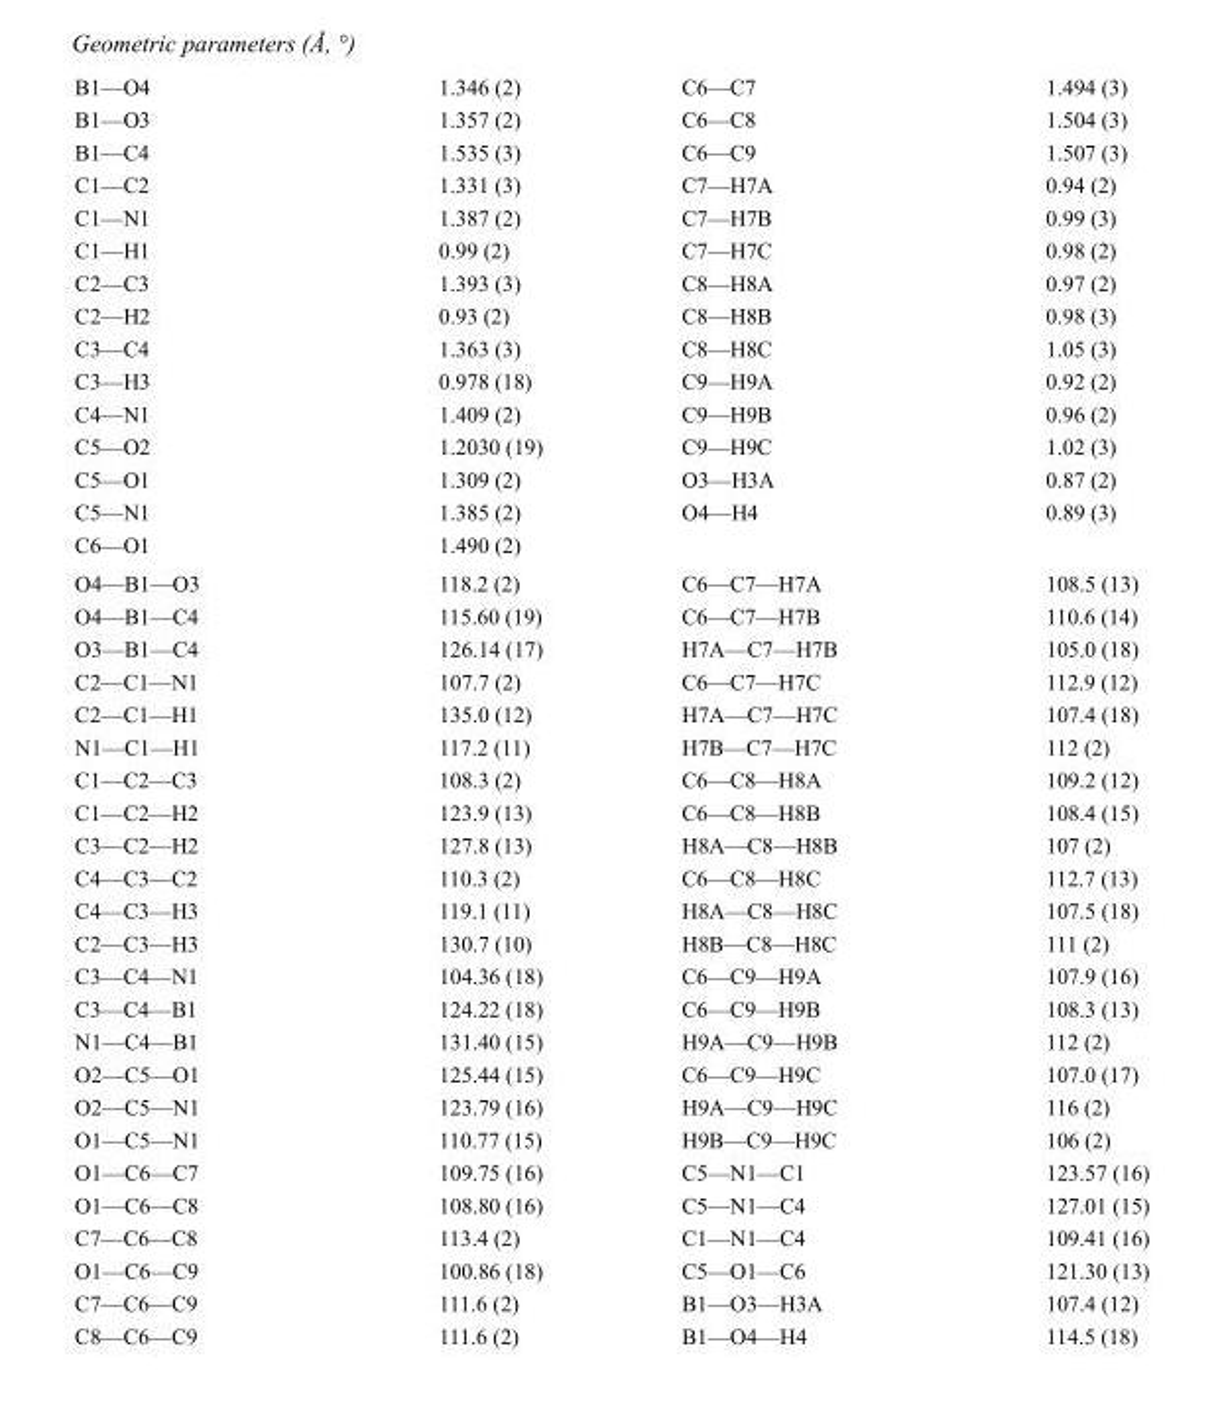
<table><tbody><tr><td>B1—O4</td><td>1.346 (2)</td><td>C6—C7</td><td>1.494 (3)</td></tr><tr><td>B1—O3</td><td>1.357 (2)</td><td>C6—C8</td><td>1.504 (3)</td></tr><tr><td>B1—C4</td><td>1.535 (3)</td><td>C6—C9</td><td>1.507 (3)</td></tr><tr><td>C1—C2</td><td>1.331 (3)</td><td>C7—H7A</td><td>0.94 (2)</td></tr><tr><td>C1—N1</td><td>1.387 (2)</td><td>C7—H7B</td><td>0.99 (3)</td></tr><tr><td>C1—H1</td><td>0.99 (2)</td><td>C7—H7C</td><td>0.98 (2)</td></tr><tr><td>C2—C3</td><td>1.393 (3)</td><td>C8—H8A</td><td>0.97 (2)</td></tr><tr><td>C2—H2</td><td>0.93 (2)</td><td>C8—H8B</td><td>0.98 (3)</td></tr><tr><td>C3—C4</td><td>1.363 (3)</td><td>C8—H8C</td><td>1.05 (3)</td></tr><tr><td>C3—H3</td><td>0.978 (18)</td><td>C9—H9A</td><td>0.92 (2)</td></tr><tr><td>C4—N1</td><td>1.409 (2)</td><td>C9—H9B</td><td>0.96 (2)</td></tr><tr><td>C5—O2</td><td>1.2030 (19)</td><td>C9—H9C</td><td>1.02 (3)</td></tr><tr><td>C5—O1</td><td>1.309 (2)</td><td>O3—H3A</td><td>0.87 (2)</td></tr><tr><td>C5—N1</td><td>1.385 (2)</td><td>O4—H4</td><td>0.89 (3)</td></tr><tr><td>C6—O1</td><td>1.490 (2)</td><td></td><td></td></tr><tr><td>O4—B1—O3</td><td>118.2 (2)</td><td>C6—C7—H7A</td><td>108.5 (13)</td></tr><tr><td>O4—B1—C4</td><td>115.60 (19)</td><td>C6—C7—H7B</td><td>110.6 (14)</td></tr><tr><td>O3—B1—C4</td><td>126.14 (17)</td><td>H7A—C7—H7B</td><td>105.0 (18)</td></tr><tr><td>C2—C1—N1</td><td>107.7 (2)</td><td>C6—C7—H7C</td><td>112.9 (12)</td></tr><tr><td>C2—C1—H1</td><td>135.0 (12)</td><td>H7A—C7—H7C</td><td>107.4 (18)</td></tr><tr><td>N1—C1—H1</td><td>117.2 (11)</td><td>H7B—C7—H7C</td><td>112 (2)</td></tr><tr><td>C1—C2—C3</td><td>108.3 (2)</td><td>C6—C8—H8A</td><td>109.2 (12)</td></tr><tr><td>C1—C2—H2</td><td>123.9 (13)</td><td>C6—C8—H8B</td><td>108.4 (15)</td></tr><tr><td>C3—C2—H2</td><td>127.8 (13)</td><td>H8A—C8—H8B</td><td>107 (2)</td></tr><tr><td>C4—C3—C2</td><td>110.3 (2)</td><td>C6—C8—H8C</td><td>112.7 (13)</td></tr><tr><td>C4—C3—H3</td><td>119.1 (11)</td><td>H8A—C8—H8C</td><td>107.5 (18)</td></tr><tr><td>C2—C3—H3</td><td>130.7 (10)</td><td>H8B—C8—H8C</td><td>111 (2)</td></tr><tr><td>C3—C4—N1</td><td>104.36 (18)</td><td>C6—C9—H9A</td><td>107.9 (16)</td></tr><tr><td>C3—C4—B1</td><td>124.22 (18)</td><td>C6—C9—H9B</td><td>108.3 (13)</td></tr><tr><td>N1—C4—B1</td><td>131.40 (15)</td><td>H9A—C9—H9B</td><td>112 (2)</td></tr><tr><td>O2—C5—O1</td><td>125.44 (15)</td><td>C6—C9—H9C</td><td>107.0 (17)</td></tr><tr><td>O2—C5—N1</td><td>123.79 (16)</td><td>H9A—C9—H9C</td><td>116 (2)</td></tr><tr><td>O1—C5—N1</td><td>110.77 (15)</td><td>H9B—C9—H9C</td><td>106 (2)</td></tr><tr><td>O1—C6—C7</td><td>109.75 (16)</td><td>C5—N1—C1</td><td>123.57 (16)</td></tr><tr><td>O1—C6—C8</td><td>108.80 (16)</td><td>C5—N1—C4</td><td>127.01 (15)</td></tr><tr><td>C7—C6—C8</td><td>113.4 (2)</td><td>C1—N1—C4</td><td>109.41 (16)</td></tr><tr><td>O1—C6—C9</td><td>100.86 (18)</td><td>C5—O1—C6</td><td>121.30 (13)</td></tr><tr><td>C7—C6—C9</td><td>111.6 (2)</td><td>B1—O3—H3A</td><td>107.4 (12)</td></tr><tr><td>C8—C6—C9</td><td>111.6 (2)</td><td>B1—O4—H4</td><td>114.5 (18)</td></tr></tbody></table>